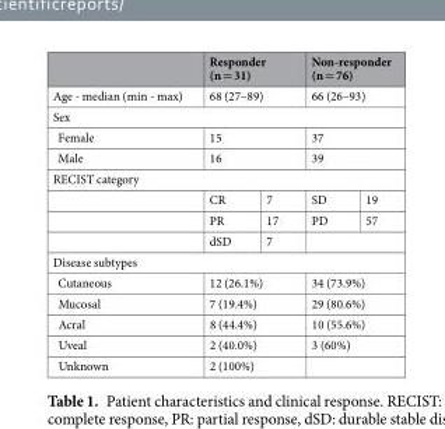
<table><thead><tr><td></td><td colspan="2">Responder (n = 31)</td><td colspan="2">Non-responder (n = 76)</td></tr></thead><tbody><tr><td>Age - median (min - max)</td><td colspan="2">68 (27–89)</td><td colspan="2">66 (26–93)</td></tr><tr><td colspan="5">Sex</td></tr><tr><td>Female</td><td colspan="2">15</td><td colspan="2">37</td></tr><tr><td>Male</td><td colspan="2">16</td><td colspan="2">39</td></tr><tr><td colspan="5">RECIST category</td></tr><tr><td></td><td>CR</td><td>7</td><td>SD</td><td>19</td></tr><tr><td></td><td>PR</td><td>17</td><td>PD</td><td>57</td></tr><tr><td></td><td>dSD</td><td>7</td><td colspan="2"></td></tr><tr><td colspan="5">Disease subtypes</td></tr><tr><td>Cutaneous</td><td colspan="2">12 (26.1%)</td><td colspan="2">34 (73.9%)</td></tr><tr><td>Mucosal</td><td colspan="2">7 (19.4%)</td><td colspan="2">29 (80.6%)</td></tr><tr><td>Acral</td><td colspan="2">8 (44.4%)</td><td colspan="2">10 (55.6%)</td></tr><tr><td>Uveal</td><td colspan="2">2 (40.0%)</td><td colspan="2">3 (60%)</td></tr><tr><td>Unknown</td><td colspan="2">2 (100%)</td><td colspan="2"></td></tr></tbody></table>